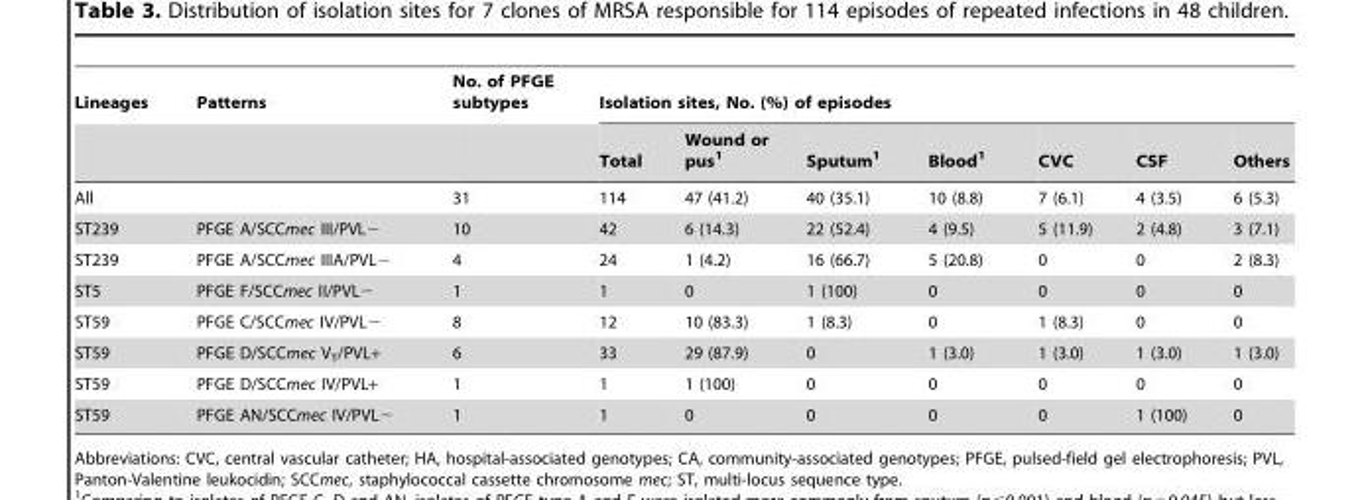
<table><thead><tr><td rowspan="2">Lineages</td><td rowspan="2">Patterns</td><td rowspan="2">No. of PFGE subtypes</td><td colspan="7">Isolation sites, No. (%) of episodes</td></tr><tr><td>Total</td><td>Wound or pus<sup>1</sup></td><td>Sputum<sup>1</sup></td><td>Blood<sup>1</sup></td><td>CVC</td><td>CSF</td><td>Others</td></tr></thead><tbody><tr><td>All</td><td></td><td>31</td><td>114</td><td>47 (41.2)</td><td>40 (35.1)</td><td>10 (8.8)</td><td>7 (6.1)</td><td>4 (3.5)</td><td>6 (5.3)</td></tr><tr><td>ST239</td><td>PFGE A/SCCmec III/PVL−</td><td>10</td><td>42</td><td>6 (14.3)</td><td>22 (52.4)</td><td>4 (9.5)</td><td>5 (11.9)</td><td>2 (4.8)</td><td>3 (7.1)</td></tr><tr><td>ST239</td><td>PFGE A/SCCmec IIIA/PVL−</td><td>4</td><td>24</td><td>1 (4.2)</td><td>16 (66.7)</td><td>5 (20.8)</td><td>0</td><td>0</td><td>2 (8.3)</td></tr><tr><td>ST5</td><td>PFGE F/SCCmec II/PVL−</td><td>1</td><td>1</td><td>0</td><td>1 (100)</td><td>0</td><td>0</td><td>0</td><td>0</td></tr><tr><td>ST59</td><td>PFGE C/SCCmec IV/PVL−</td><td>8</td><td>12</td><td>10 (83.3)</td><td>1 (8.3)</td><td>0</td><td>1 (8.3)</td><td>0</td><td>0</td></tr><tr><td>ST59</td><td>PFGE D/SCCmec V<sub>T</sub>/PVL+</td><td>6</td><td>33</td><td>29 (87.9)</td><td>0</td><td>1 (3.0)</td><td>1 (3.0)</td><td>1 (3.0)</td><td>1 (3.0)</td></tr><tr><td>ST59</td><td>PFGE D/SCCmec IV/PVL+</td><td>1</td><td>1</td><td>1 (100)</td><td>0</td><td>0</td><td>0</td><td>0</td><td>0</td></tr><tr><td>ST59</td><td>PFGE AN/SCCmec IV/PVL−</td><td>1</td><td>1</td><td>0</td><td>0</td><td>0</td><td>0</td><td>1 (100)</td><td>0</td></tr></tbody></table>